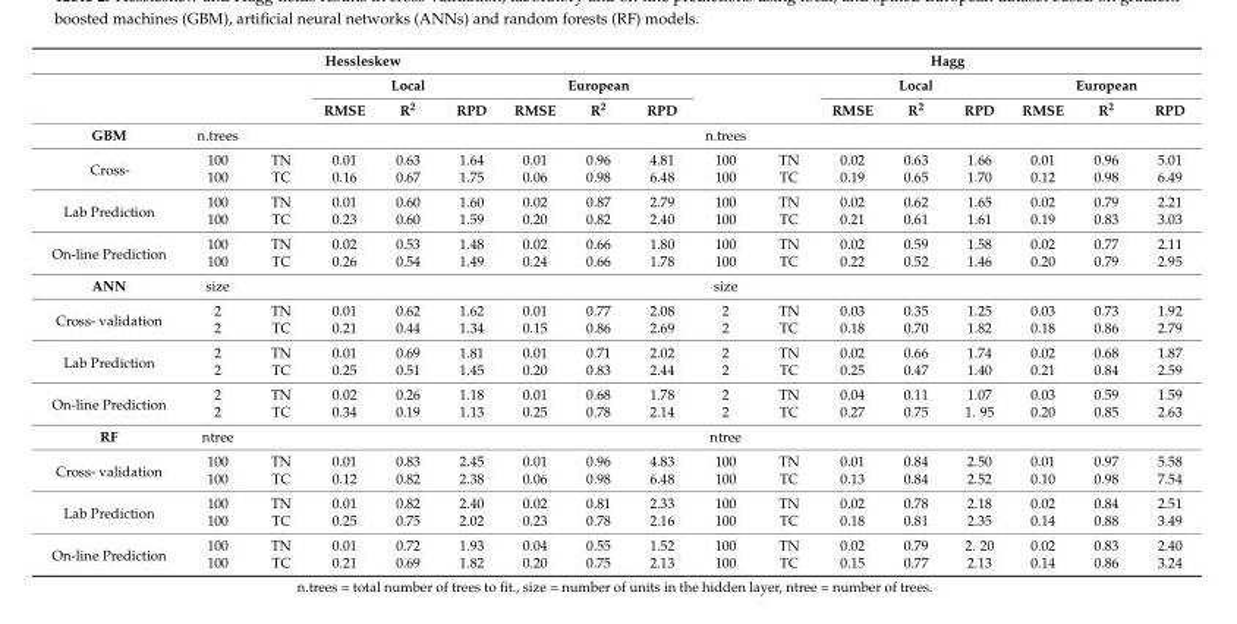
<table><thead><tr><td colspan="9">Hessleskew</td><td colspan="8">Hagg</td></tr><tr><td rowspan="2"></td><td rowspan="2"></td><td rowspan="2"></td><td colspan="3">Local</td><td colspan="3">European</td><td rowspan="2"></td><td rowspan="2"></td><td colspan="3">Local</td><td colspan="3">European</td></tr><tr><td>RMSE</td><td>R<sup>2</sup></td><td>RPD</td><td>RMSE</td><td>R<sup>2</sup></td><td>RPD</td><td>RMSE</td><td>R<sup>2</sup></td><td>RPD</td><td>RMSE</td><td>R<sup>2</sup></td><td>RPD</td></tr></thead><tbody><tr><td>GBM</td><td>n.trees</td><td></td><td></td><td></td><td></td><td></td><td></td><td></td><td>n.trees</td><td></td><td></td><td></td><td></td><td></td><td></td><td></td></tr><tr><td rowspan="2">Cross-</td><td>100</td><td>TN</td><td>0.01</td><td>0.63</td><td>1.64</td><td>0.01</td><td>0.96</td><td>4.81</td><td>100</td><td>TN</td><td>0.02</td><td>0.63</td><td>1.66</td><td>0.01</td><td>0.96</td><td>5.01</td></tr><tr><td>100</td><td>TC</td><td>0.16</td><td>0.67</td><td>1.75</td><td>0.06</td><td>0.98</td><td>6.48</td><td>100</td><td>TC</td><td>0.19</td><td>0.65</td><td>1.70</td><td>0.12</td><td>0.98</td><td>6.49</td></tr><tr><td rowspan="2">Lab Prediction</td><td>100</td><td>TN</td><td>0.01</td><td>0.60</td><td>1.60</td><td>0.02</td><td>0.87</td><td>2.79</td><td>100</td><td>TN</td><td>0.02</td><td>0.62</td><td>1.65</td><td>0.02</td><td>0.79</td><td>2.21</td></tr><tr><td>100</td><td>TC</td><td>0.23</td><td>0.60</td><td>1.59</td><td>0.20</td><td>0.82</td><td>2.40</td><td>100</td><td>TC</td><td>0.21</td><td>0.61</td><td>1.61</td><td>0.19</td><td>0.83</td><td>3.03</td></tr><tr><td rowspan="2">On-line Prediction</td><td>100</td><td>TN</td><td>0.02</td><td>0.53</td><td>1.48</td><td>0.02</td><td>0.66</td><td>1.80</td><td>100</td><td>TN</td><td>0.02</td><td>0.59</td><td>1.58</td><td>0.02</td><td>0.77</td><td>2.11</td></tr><tr><td>100</td><td>TC</td><td>0.26</td><td>0.54</td><td>1.49</td><td>0.24</td><td>0.66</td><td>1.78</td><td>100</td><td>TC</td><td>0.22</td><td>0.52</td><td>1.46</td><td>0.20</td><td>0.79</td><td>2.95</td></tr><tr><td>ANN</td><td>size</td><td></td><td></td><td></td><td></td><td></td><td></td><td></td><td>size</td><td></td><td></td><td></td><td></td><td></td><td></td><td></td></tr><tr><td rowspan="2">Cross- validation</td><td>2</td><td>TN</td><td>0.01</td><td>0.62</td><td>1.62</td><td>0.01</td><td>0.77</td><td>2.08</td><td>2</td><td>TN</td><td>0.03</td><td>0.35</td><td>1.25</td><td>0.03</td><td>0.73</td><td>1.92</td></tr><tr><td>2</td><td>TC</td><td>0.21</td><td>0.44</td><td>1.34</td><td>0.15</td><td>0.86</td><td>2.69</td><td>2</td><td>TC</td><td>0.18</td><td>0.70</td><td>1.82</td><td>0.18</td><td>0.86</td><td>2.79</td></tr><tr><td rowspan="2">Lab Prediction</td><td>2</td><td>TN</td><td>0.01</td><td>0.69</td><td>1.81</td><td>0.01</td><td>0.71</td><td>2.02</td><td>2</td><td>TN</td><td>0.02</td><td>0.66</td><td>1.74</td><td>0.02</td><td>0.68</td><td>1.87</td></tr><tr><td>2</td><td>TC</td><td>0.25</td><td>0.51</td><td>1.45</td><td>0.20</td><td>0.83</td><td>2.44</td><td>2</td><td>TC</td><td>0.25</td><td>0.47</td><td>1.40</td><td>0.21</td><td>0.84</td><td>2.59</td></tr><tr><td rowspan="2">On-line Prediction</td><td>2</td><td>TN</td><td>0.02</td><td>0.26</td><td>1.18</td><td>0.01</td><td>0.68</td><td>1.78</td><td>2</td><td>TN</td><td>0.04</td><td>0.11</td><td>1.07</td><td>0.03</td><td>0.59</td><td>1.59</td></tr><tr><td>2</td><td>TC</td><td>0.34</td><td>0.19</td><td>1.13</td><td>0.25</td><td>0.78</td><td>2.14</td><td>2</td><td>TC</td><td>0.27</td><td>0.75</td><td>1. 95</td><td>0.20</td><td>0.85</td><td>2.63</td></tr><tr><td>RF</td><td>ntree</td><td></td><td></td><td></td><td></td><td></td><td></td><td></td><td>ntree</td><td></td><td></td><td></td><td></td><td></td><td></td><td></td></tr><tr><td rowspan="2">Cross- validation</td><td>100</td><td>TN</td><td>0.01</td><td>0.83</td><td>2.45</td><td>0.01</td><td>0.96</td><td>4.83</td><td>100</td><td>TN</td><td>0.01</td><td>0.84</td><td>2.50</td><td>0.01</td><td>0.97</td><td>5.58</td></tr><tr><td>100</td><td>TC</td><td>0.12</td><td>0.82</td><td>2.38</td><td>0.06</td><td>0.98</td><td>6.48</td><td>100</td><td>TC</td><td>0.13</td><td>0.84</td><td>2.52</td><td>0.10</td><td>0.98</td><td>7.54</td></tr><tr><td rowspan="2">Lab Prediction</td><td>100</td><td>TN</td><td>0.01</td><td>0.82</td><td>2.40</td><td>0.02</td><td>0.81</td><td>2.33</td><td>100</td><td>TN</td><td>0.02</td><td>0.78</td><td>2.18</td><td>0.02</td><td>0.84</td><td>2.51</td></tr><tr><td>100</td><td>TC</td><td>0.25</td><td>0.75</td><td>2.02</td><td>0.23</td><td>0.78</td><td>2.16</td><td>100</td><td>TC</td><td>0.18</td><td>0.81</td><td>2.35</td><td>0.14</td><td>0.88</td><td>3.49</td></tr><tr><td rowspan="2">On-line Prediction</td><td>100</td><td>TN</td><td>0.01</td><td>0.72</td><td>1.93</td><td>0.04</td><td>0.55</td><td>1.52</td><td>100</td><td>TN</td><td>0.02</td><td>0.79</td><td>2. 20</td><td>0.02</td><td>0.83</td><td>2.40</td></tr><tr><td>100</td><td>TC</td><td>0.21</td><td>0.69</td><td>1.82</td><td>0.20</td><td>0.75</td><td>2.13</td><td>100</td><td>TC</td><td>0.15</td><td>0.77</td><td>2.13</td><td>0.14</td><td>0.86</td><td>3.24</td></tr></tbody></table>